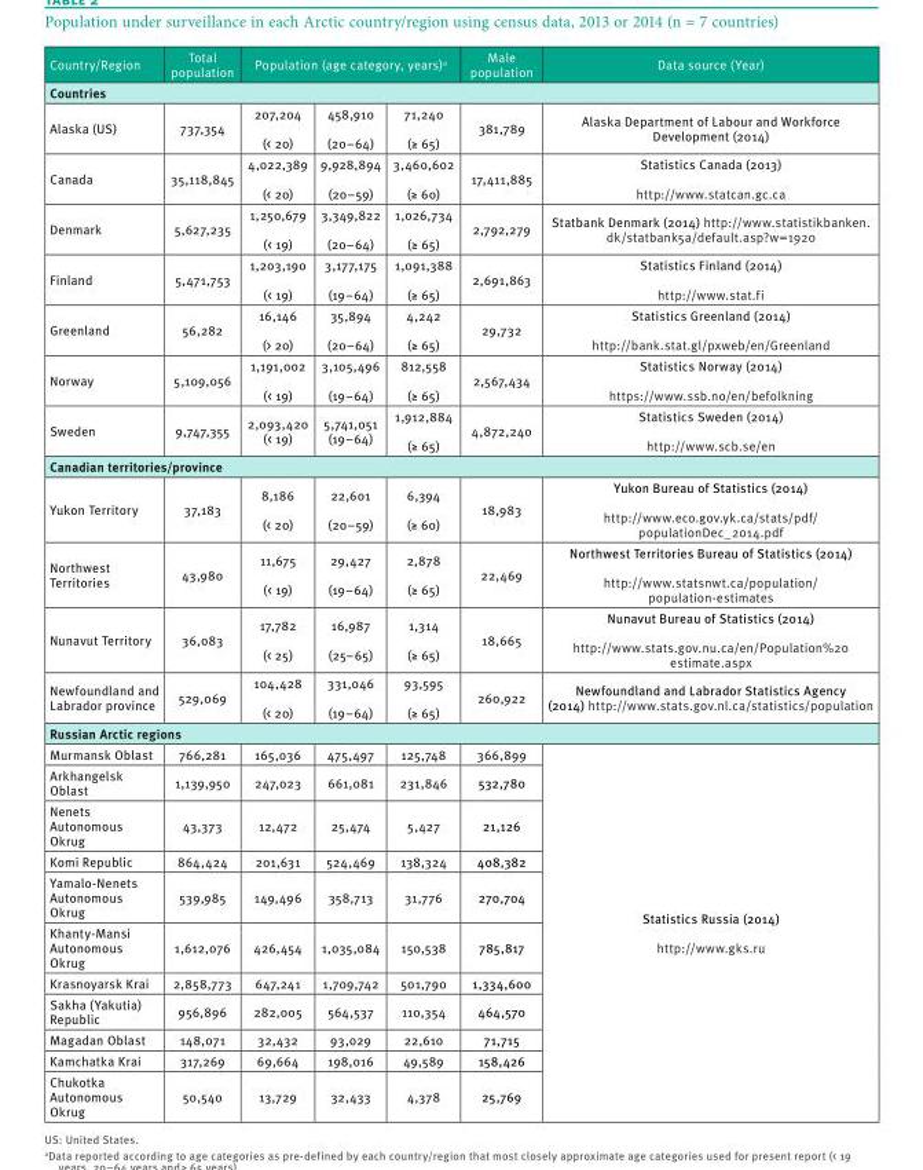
<table><thead><tr><td>Country/Region</td><td>Total population</td><td colspan="3">Population (age category, years)<sup>a</sup></td><td>Male population</td><td>Data source (Year)</td></tr><tr><td colspan="7">Countries</td></tr><tr><td>Alaska (US)</td><td>737,354</td><td>207,204 (&lt; 20)</td><td>458,910 (20–64)</td><td>71,240 (≥ 65)</td><td>381,789</td><td>Alaska Department of Labour and Workforce Development (2014)</td></tr></thead><tbody><tr><td>Canada</td><td>35,118,845</td><td>4,022,389 (&lt; 20)</td><td>9,928,894 (20–59)</td><td>3,460,602 (≥ 60)</td><td>17,411,885</td><td>Statistics Canada (2013) http://www.statcan.gc.ca</td></tr><tr><td>Denmark</td><td>5,627,235</td><td>1,250,679 (&lt; 19)</td><td>3,349,822 (20–64)</td><td>1,026,734 (≥ 65)</td><td>2,792,279</td><td>Statbank Denmark (2014) http://www.statistikbanken. dk/statbank5a/default.asp?w=1920</td></tr><tr><td>Finland</td><td>5,471,753</td><td>1,203,190 (&lt; 19)</td><td>3,177,175 (19–64)</td><td>1,091,388 (≥ 65)</td><td>2,691,863</td><td>Statistics Finland (2014) http://www.stat.fi</td></tr><tr><td>Greenland</td><td>56,282</td><td>16,146 (&gt; 20)</td><td>35,894 (20–64)</td><td>4,242 (≥ 65)</td><td>29,732</td><td>Statistics Greenland (2014) http://bank.stat.gl/pxweb/en/Greenland</td></tr><tr><td>Norway</td><td>5,109,056</td><td>1,191,002 (&lt; 19)</td><td>3,105,496 (19–64)</td><td>812,558 (≥ 65)</td><td>2,567,434</td><td>Statistics Norway (2014) https://www.ssb.no/en/befolkning</td></tr><tr><td>Sweden</td><td>9,747,355</td><td>2,093,420 (&lt; 19)</td><td>5,741,051 (19–64)</td><td>1,912,884 (≥ 65)</td><td>4,872,240</td><td>Statistics Sweden (2014) http://www.scb.se/en</td></tr><tr><td colspan="7">Canadian territories/province</td></tr><tr><td>Yukon Territory</td><td>37,183</td><td>8,186 (&lt; 20)</td><td>22,601 (20–59)</td><td>6,394 (≥ 60)</td><td>18,983</td><td>Yukon Bureau of Statistics (2014) http://www.eco.gov.yk.ca/stats/pdf/ populationDec_2014.pdf</td></tr><tr><td>Northwest Territories</td><td>43,980</td><td>11,675 (&lt; 19)</td><td>29,427 (19–64)</td><td>2,878 (≥ 65)</td><td>22,469</td><td>Northwest Territories Bureau of Statistics (2014) http://www.statsnwt.ca/population/ population-estimates</td></tr><tr><td>Nunavut Territory</td><td>36,083</td><td>17,782 (&lt; 25)</td><td>16,987 (25–65)</td><td>1,314 (≥ 65)</td><td>18,665</td><td>Nunavut Bureau of Statistics (2014) http://www.stats.gov.nu.ca/en/Population%20 estimate.aspx</td></tr><tr><td>Newfoundland and Labrador province</td><td>529,069</td><td>104,428 (&lt; 20)</td><td>331,046 (19–64)</td><td>93,595 (≥ 65)</td><td>260,922</td><td>Newfoundland and Labrador Statistics Agency (2014) http://www.stats.gov.nl.ca/statistics/population</td></tr><tr><td colspan="7">Russian Arctic regions</td></tr><tr><td>Murmansk Oblast</td><td>766,281</td><td>165,036</td><td>475,497</td><td>125,748</td><td>366,899</td><td rowspan="11">Statistics Russia (2014) http://www.gks.ru</td></tr><tr><td>Arkhangelsk Oblast</td><td>1,139,950</td><td>247,023</td><td>661,081</td><td>231,846</td><td>532,780</td></tr><tr><td>Nenets Autonomous Okrug</td><td>43,373</td><td>12,472</td><td>25,474</td><td>5,427</td><td>21,126</td></tr><tr><td>Komi Republic</td><td>864,424</td><td>201,631</td><td>524,469</td><td>138,324</td><td>408,382</td></tr><tr><td>Yamalo-Nenets Autonomous Okrug</td><td>539,985</td><td>149,496</td><td>358,713</td><td>31,776</td><td>270,704</td></tr><tr><td>Khanty-Mansi Autonomous Okrug</td><td>1,612,076</td><td>426,454</td><td>1,035,084</td><td>150,538</td><td>785,817</td></tr><tr><td>Krasnoyarsk Krai</td><td>2,858,773</td><td>647,241</td><td>1,709,742</td><td>501,790</td><td>1,334,600</td></tr><tr><td>Sakha (Yakutia) Republic</td><td>956,896</td><td>282,005</td><td>564,537</td><td>110,354</td><td>464,570</td></tr><tr><td>Magadan Oblast</td><td>148,071</td><td>32,432</td><td>93,029</td><td>22,610</td><td>71,715</td></tr><tr><td>Kamchatka Krai</td><td>317,269</td><td>69,664</td><td>198,016</td><td>49,589</td><td>158,426</td></tr><tr><td>Chukotka Autonomous Okrug</td><td>50,540</td><td>13,729</td><td>32,433</td><td>4,378</td><td>25,769</td></tr></tbody></table>